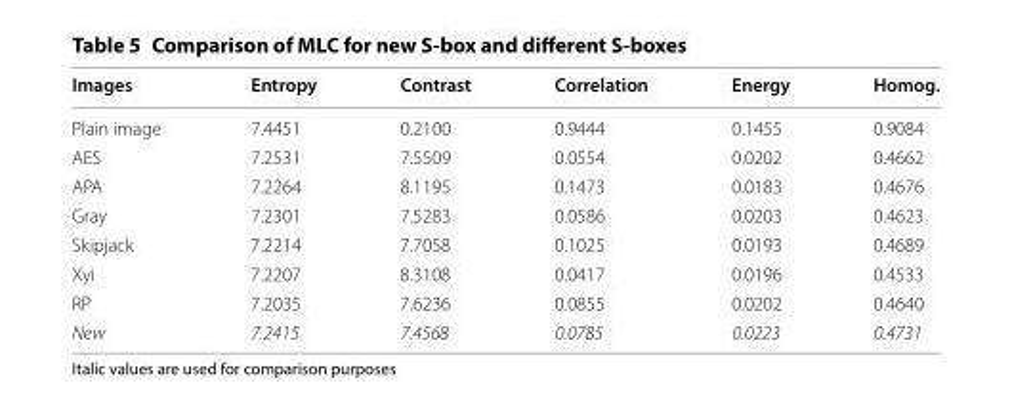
<table><thead><tr><td>Images</td><td>Entropy</td><td>Contrast</td><td>Correlation</td><td>Energy</td><td>Homog.</td></tr></thead><tbody><tr><td>Plain image</td><td>7.4451</td><td>0.2100</td><td>0.9444</td><td>0.1455</td><td>0.9084</td></tr><tr><td>AES</td><td>7.2531</td><td>7.5509</td><td>0.0554</td><td>0.0202</td><td>0.4662</td></tr><tr><td>APA</td><td>7.2264</td><td>8.1195</td><td>0.1473</td><td>0.0183</td><td>0.4676</td></tr><tr><td>Gray</td><td>7.2301</td><td>7.5283</td><td>0.0586</td><td>0.0203</td><td>0.4623</td></tr><tr><td>Skipjack</td><td>7.2214</td><td>7.7058</td><td>0.1025</td><td>0.0193</td><td>0.4689</td></tr><tr><td>Xyi</td><td>7.2207</td><td>8.3108</td><td>0.0417</td><td>0.0196</td><td>0.4533</td></tr><tr><td>RP</td><td>7.2035</td><td>7.6236</td><td>0.0855</td><td>0.0202</td><td>0.4640</td></tr><tr><td>New</td><td>7.2415</td><td>7.4568</td><td>0.0785</td><td>0.0223</td><td>0.4731</td></tr></tbody></table>